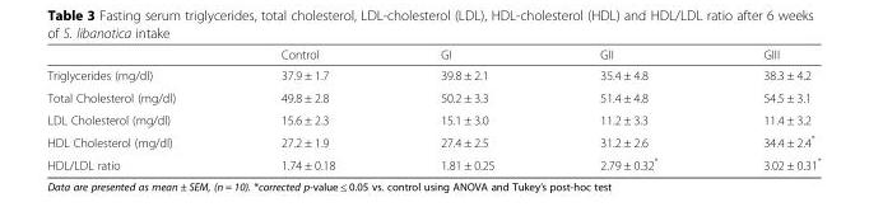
<table><thead><tr><td></td><td>Control</td><td>GI</td><td>GII</td><td>GIII</td></tr></thead><tbody><tr><td>Triglycerides (mg/dl)</td><td>37.9 ± 1.7</td><td>39.8 ± 2.1</td><td>35.4 ± 4.8</td><td>38.3 ± 4.2</td></tr><tr><td>Total Cholesterol (mg/dl)</td><td>49.8 ± 2.8</td><td>50.2 ± 3.3</td><td>51.4 ± 4.8</td><td>54.5 ± 3.1</td></tr><tr><td>LDL Cholesterol (mg/dl)</td><td>15.6 ± 2.3</td><td>15.1 ± 3.0</td><td>11.2 ± 3.3</td><td>11.4 ± 3.2</td></tr><tr><td>HDL Cholesterol (mg/dl)</td><td>27.2 ± 1.9</td><td>27.4 ± 2.5</td><td>31.2 ± 2.6</td><td>34.4 ± 2.4*</td></tr><tr><td>HDL/LDL ratio</td><td>1.74 ± 0.18</td><td>1.81 ± 0.25</td><td>2.79 ± 0.32*</td><td>3.02 ± 0.31*</td></tr></tbody></table>